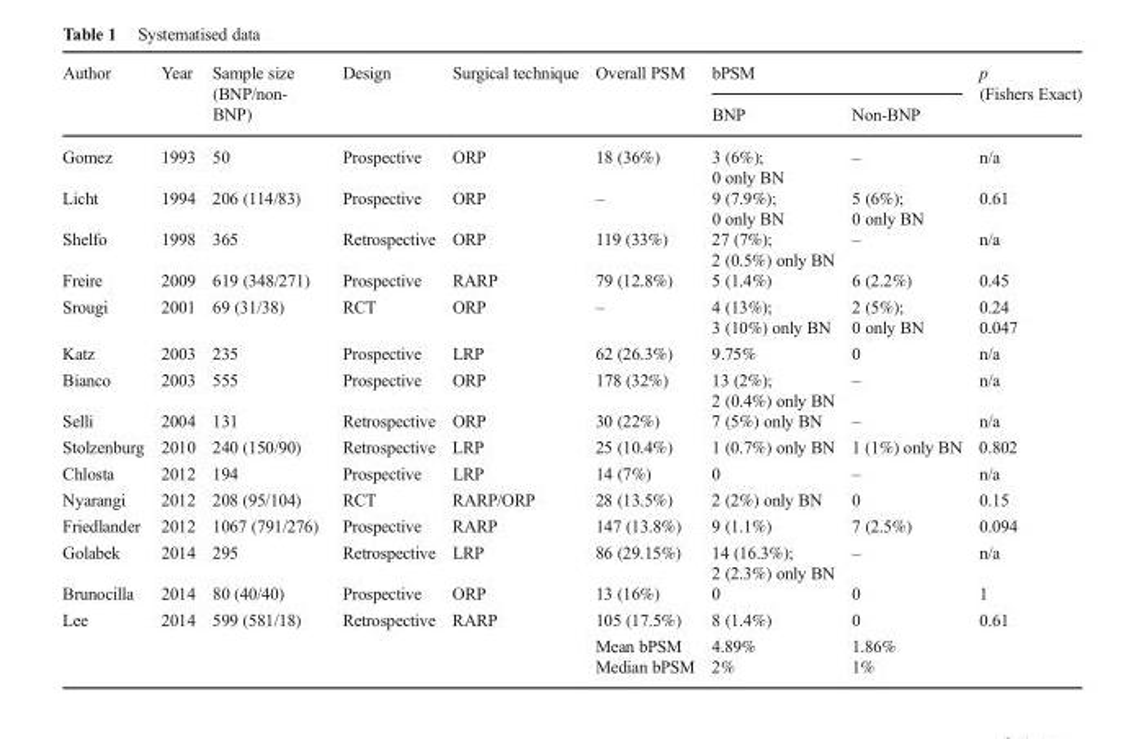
<table><thead><tr><td rowspan="2">Author</td><td rowspan="2">Year</td><td rowspan="2">Sample size (BNP/non- BNP)</td><td rowspan="2">Design</td><td rowspan="2">Surgical technique</td><td rowspan="2">Overall PSM</td><td colspan="2">bPSM</td><td rowspan="2">p (Fishers Exact)</td></tr><tr><td>BNP</td><td>Non-BNP</td></tr></thead><tbody><tr><td>Gomez</td><td>1993</td><td>50</td><td>Prospective</td><td>ORP</td><td>18 (36%)</td><td>3 (6%); 0 only BN</td><td>–</td><td>n/a</td></tr><tr><td>Licht</td><td>1994</td><td>206 (114/83)</td><td>Prospective</td><td>ORP</td><td>–</td><td>9 (7.9%); 0 only BN</td><td>5 (6%); 0 only BN</td><td>0.61</td></tr><tr><td>Shelfo</td><td>1998</td><td>365</td><td>Retrospective</td><td>ORP</td><td>119 (33%)</td><td>27 (7%); 2 (0.5%) only BN</td><td>–</td><td>n/a</td></tr><tr><td>Freire</td><td>2009</td><td>619 (348/271)</td><td>Prospective</td><td>RARP</td><td>79 (12.8%)</td><td>5 (1.4%)</td><td>6 (2.2%)</td><td>0.45</td></tr><tr><td>Srougi</td><td>2001</td><td>69 (31/38)</td><td>RCT</td><td>ORP</td><td>–</td><td>4 (13%); 3 (10%) only BN</td><td>2 (5%); 0 only BN</td><td>0.24 0.047</td></tr><tr><td>Katz</td><td>2003</td><td>235</td><td>Prospective</td><td>LRP</td><td>62 (26.3%)</td><td>9.75%</td><td>0</td><td>n/a</td></tr><tr><td>Bianco</td><td>2003</td><td>555</td><td>Prospective</td><td>ORP</td><td>178 (32%)</td><td>13 (2%); 2 (0.4%) only BN</td><td>–</td><td>n/a</td></tr><tr><td>Selli</td><td>2004</td><td>131</td><td>Retrospective</td><td>ORP</td><td>30 (22%)</td><td>7 (5%) only BN</td><td>–</td><td>n/a</td></tr><tr><td>Stolzenburg</td><td>2010</td><td>240 (150/90)</td><td>Retrospective</td><td>LRP</td><td>25 (10.4%)</td><td>1 (0.7%) only BN</td><td>1 (1%) only BN</td><td>0.802</td></tr><tr><td>Chlosta</td><td>2012</td><td>194</td><td>Prospective</td><td>LRP</td><td>14 (7%)</td><td>0</td><td>–</td><td>n/a</td></tr><tr><td>Nyarangi</td><td>2012</td><td>208 (95/104)</td><td>RCT</td><td>RARP/ORP</td><td>28 (13.5%)</td><td>2 (2%) only BN</td><td>0</td><td>0.15</td></tr><tr><td>Friedlander</td><td>2012</td><td>1067 (791/276)</td><td>Prospective</td><td>RARP</td><td>147 (13.8%)</td><td>9 (1.1%)</td><td>7 (2.5%)</td><td>0.094</td></tr><tr><td>Golabek</td><td>2014</td><td>295</td><td>Retrospective</td><td>LRP</td><td>86 (29.15%)</td><td>14 (16.3%); 2 (2.3%) only BN</td><td>–</td><td>n/a</td></tr><tr><td>Brunocilla</td><td>2014</td><td>80 (40/40)</td><td>Prospective</td><td>ORP</td><td>13 (16%)</td><td>0</td><td>0</td><td>1</td></tr><tr><td>Lee</td><td>2014</td><td>599 (581/18)</td><td>Retrospective</td><td>RARP</td><td>105 (17.5%)</td><td>8 (1.4%)</td><td>0</td><td>0.61</td></tr><tr><td rowspan="2" colspan="5"></td><td>Mean bPSM</td><td>4.89%</td><td>1.86%</td><td rowspan="2"></td></tr><tr><td>Median bPSM</td><td>2%</td><td>1%</td></tr></tbody></table>